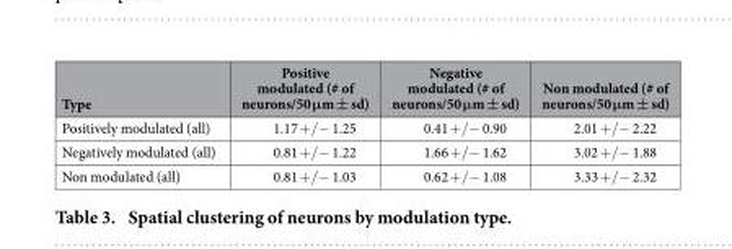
<table><thead><tr><td>Type</td><td>Positive modulated (# of neurons/50 μm ± sd)</td><td>Negative modulated (# of neurons/50 μm ± sd)</td><td>Non modulated (# of neurons/50 μm ± sd)</td></tr></thead><tbody><tr><td>Positively modulated (all)</td><td>1.17 +/- 1.25</td><td>0.41 +/- 0.90</td><td>2.01 +/- 2.22</td></tr><tr><td>Negatively modulated (all)</td><td>0.81 +/- 1.22</td><td>1.66 +/- 1.62</td><td>3.02 +/- 1.88</td></tr><tr><td>Non modulated (all)</td><td>0.81 +/- 1.03</td><td>0.62 +/- 1.08</td><td>3.33 +/- 2.32</td></tr></tbody></table>